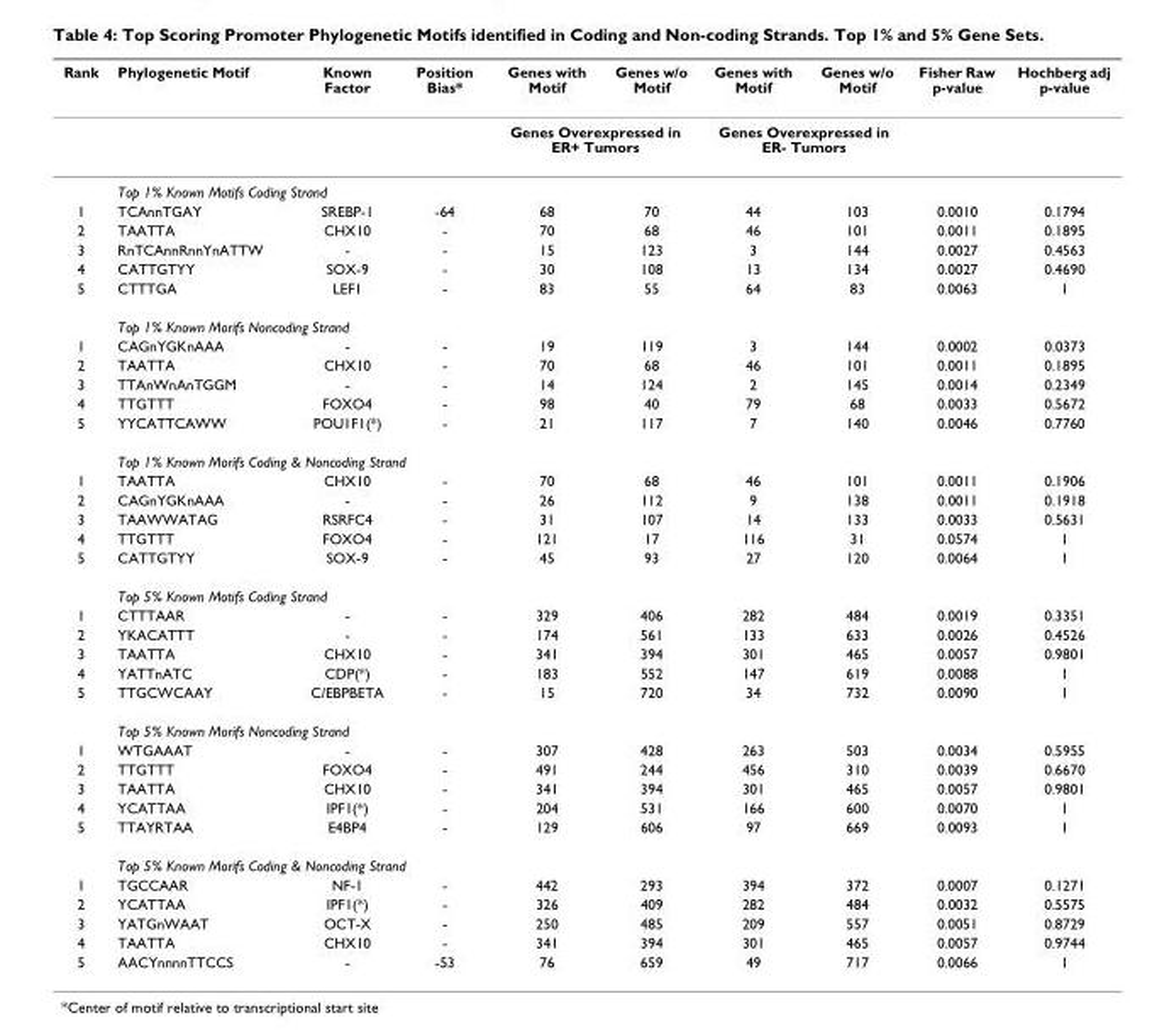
<table><thead><tr><td>Rank</td><td>Phylogenetic Motif</td><td>Known Factor</td><td>Position Bias*</td><td>Genes with Motif</td><td>Genes w/o Motif</td><td>Genes with Motif</td><td>Genes w/o Motif</td><td>Fisher Raw p-value</td><td>Hochberg adj p-value</td></tr></thead><tbody><tr><td></td><td></td><td></td><td></td><td colspan="2">Genes Overexpressed in ER+ Tumors</td><td colspan="2">Genes Overexpressed in ER- Tumors</td><td></td><td></td></tr><tr><td></td><td colspan="3">Top 1% Known Motifs Coding Strand</td><td></td><td></td><td></td><td></td><td></td><td></td></tr><tr><td>1</td><td>TCAnnTGAY</td><td>SREBP-1</td><td>-64</td><td>68</td><td>70</td><td>44</td><td>103</td><td>0.0010</td><td>0.1794</td></tr><tr><td>2</td><td>TAATTA</td><td>CHX10</td><td>-</td><td>70</td><td>68</td><td>46</td><td>101</td><td>0.0011</td><td>0.1895</td></tr><tr><td>3</td><td>RnTCAnnRnnYnATTW</td><td>-</td><td>-</td><td>15</td><td>123</td><td>3</td><td>144</td><td>0.0027</td><td>0.4563</td></tr><tr><td>4</td><td>CATTGTYY</td><td>SOX-9</td><td>-</td><td>30</td><td>108</td><td>13</td><td>134</td><td>0.0027</td><td>0.4690</td></tr><tr><td rowspan="2">5</td><td>CTTTGA</td><td>LEF1</td><td>-</td><td>83</td><td>55</td><td>64</td><td>83</td><td>0.0063</td><td>1</td></tr><tr><td colspan="2">Top 1% Known Morifs Noncoding Strand</td><td></td><td></td><td></td><td></td><td></td><td></td><td></td></tr><tr><td>1</td><td>CAGnYGKnAAA</td><td>-</td><td>-</td><td>19</td><td>119</td><td>3</td><td>144</td><td>0.0002</td><td>0.0373</td></tr><tr><td>2</td><td>TAATTA</td><td>CHX10</td><td>-</td><td>70</td><td>68</td><td>46</td><td>101</td><td>0.0011</td><td>0.1895</td></tr><tr><td>3</td><td>TTAnWnAnTGGM</td><td>-</td><td>-</td><td>14</td><td>124</td><td>2</td><td>145</td><td>0.0014</td><td>0.2349</td></tr><tr><td>4</td><td>TTGTTT</td><td>FOXO4</td><td>-</td><td>98</td><td>40</td><td>79</td><td>68</td><td>0.0033</td><td>0.5672</td></tr><tr><td rowspan="2">5</td><td>YYCATTCAWW</td><td>POU1F1(*)</td><td>-</td><td>21</td><td>117</td><td>7</td><td>140</td><td>0.0046</td><td>0.7760</td></tr><tr><td colspan="3">Top 1% Known Morifs Coding &amp; Noncoding Strand</td><td></td><td></td><td></td><td></td><td></td><td></td></tr><tr><td>1</td><td>TAATTA</td><td>CHX10</td><td>-</td><td>70</td><td>68</td><td>46</td><td>101</td><td>0.0011</td><td>0.1906</td></tr><tr><td>2</td><td>CAGnYGKnAAA</td><td>-</td><td>-</td><td>26</td><td>112</td><td>9</td><td>138</td><td>0.0011</td><td>0.1918</td></tr><tr><td>3</td><td>TAAWWATAG</td><td>RSRFC4</td><td>-</td><td>31</td><td>107</td><td>14</td><td>133</td><td>0.0033</td><td>0.5631</td></tr><tr><td>4</td><td>TTGTTT</td><td>FOXO4</td><td>-</td><td>121</td><td>17</td><td>116</td><td>31</td><td>0.0574</td><td>1</td></tr><tr><td rowspan="2">5</td><td>CATTGTYY</td><td>SOX-9</td><td>-</td><td>45</td><td>93</td><td>27</td><td>120</td><td>0.0064</td><td>1</td></tr><tr><td colspan="2">Top 5% Known Motifs Coding Strand</td><td></td><td></td><td></td><td></td><td></td><td></td><td></td></tr><tr><td>1</td><td>CTTTAAR</td><td>-</td><td>-</td><td>329</td><td>406</td><td>282</td><td>484</td><td>0.0019</td><td>0.3351</td></tr><tr><td>2</td><td>YKACATTT</td><td>-</td><td>-</td><td>174</td><td>561</td><td>133</td><td>633</td><td>0.0026</td><td>0.4526</td></tr><tr><td>3</td><td>TAATTA</td><td>CHX10</td><td>-</td><td>341</td><td>394</td><td>301</td><td>465</td><td>0.0057</td><td>0.9801</td></tr><tr><td>4</td><td>YATTnATC</td><td>CDP(*)</td><td>-</td><td>183</td><td>552</td><td>147</td><td>619</td><td>0.0088</td><td>1</td></tr><tr><td rowspan="2">5</td><td>TTGCWCAAY</td><td>C/EBPBETA</td><td>-</td><td>15</td><td>720</td><td>34</td><td>732</td><td>0.0090</td><td>1</td></tr><tr><td colspan="2">Top 5% Known Morifs Noncoding Strand</td><td></td><td></td><td></td><td></td><td></td><td></td><td></td></tr><tr><td>1</td><td>WTGAAAT</td><td>-</td><td>-</td><td>307</td><td>428</td><td>263</td><td>503</td><td>0.0034</td><td>0.5955</td></tr><tr><td>2</td><td>TTGTTT</td><td>FOXO4</td><td>-</td><td>491</td><td>244</td><td>456</td><td>310</td><td>0.0039</td><td>0.6670</td></tr><tr><td>3</td><td>TAATTA</td><td>CHX10</td><td>-</td><td>341</td><td>394</td><td>301</td><td>465</td><td>0.0057</td><td>0.9801</td></tr><tr><td>4</td><td>YCATTAA</td><td>IPF1(*)</td><td>-</td><td>204</td><td>531</td><td>166</td><td>600</td><td>0.0070</td><td>1</td></tr><tr><td rowspan="2">5</td><td>TTAYRTAA</td><td>E4BP4</td><td>-</td><td>129</td><td>606</td><td>97</td><td>669</td><td>0.0093</td><td>1</td></tr><tr><td colspan="3">Top 5% Known Morifs Coding &amp; Noncoding Strand</td><td></td><td></td><td></td><td></td><td></td><td></td></tr><tr><td>1</td><td>TGCCAAR</td><td>NF-1</td><td>-</td><td>442</td><td>293</td><td>394</td><td>372</td><td>0.0007</td><td>0.1271</td></tr><tr><td>2</td><td>YCATTAA</td><td>IPF1(*)</td><td>-</td><td>326</td><td>409</td><td>282</td><td>484</td><td>0.0032</td><td>0.5575</td></tr><tr><td>3</td><td>YATGnWAAT</td><td>OCT-X</td><td>-</td><td>250</td><td>485</td><td>209</td><td>557</td><td>0.0051</td><td>0.8729</td></tr><tr><td>4</td><td>TAATTA</td><td>CHX10</td><td>-</td><td>341</td><td>394</td><td>301</td><td>465</td><td>0.0057</td><td>0.9744</td></tr><tr><td>5</td><td>AACYnnnnTTCCS</td><td>-</td><td>-53</td><td>76</td><td>659</td><td>49</td><td>717</td><td>0.0066</td><td>1</td></tr></tbody></table>